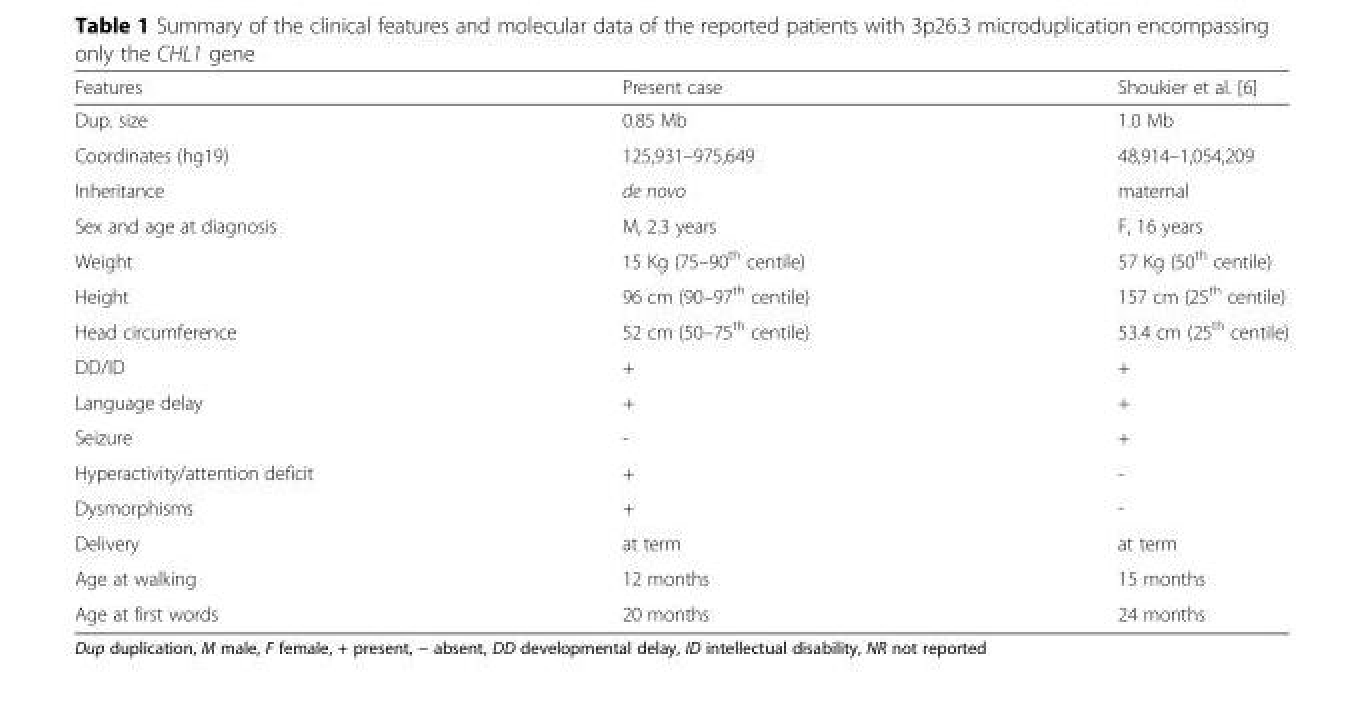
<table><thead><tr><td>Features</td><td>Present case</td><td>Shoukier et al. [6]</td></tr></thead><tbody><tr><td>Dup. size</td><td>0.85 Mb</td><td>1.0 Mb</td></tr><tr><td>Coordinates (hg19)</td><td>125,931–975,649</td><td>48,914–1,054,209</td></tr><tr><td>Inheritance</td><td>de novo</td><td>maternal</td></tr><tr><td>Sex and age at diagnosis</td><td>M, 2.3 years</td><td>F, 16 years</td></tr><tr><td>Weight</td><td>15 Kg (75–90<sup>th</sup> centile)</td><td>57 Kg (50<sup>th</sup> centile)</td></tr><tr><td>Height</td><td>96 cm (90–97<sup>th</sup> centile)</td><td>157 cm (25<sup>th</sup> centile)</td></tr><tr><td>Head circumference</td><td>52 cm (50–75<sup>th</sup> centile)</td><td>53.4 cm (25<sup>th</sup> centile)</td></tr><tr><td>DD/ID</td><td>+</td><td>+</td></tr><tr><td>Language delay</td><td>+</td><td>+</td></tr><tr><td>Seizure</td><td>-</td><td>+</td></tr><tr><td>Hyperactivity/attention deficit</td><td>+</td><td>-</td></tr><tr><td>Dysmorphisms</td><td>+</td><td>-</td></tr><tr><td>Delivery</td><td>at term</td><td>at term</td></tr><tr><td>Age at walking</td><td>12 months</td><td>15 months</td></tr><tr><td>Age at first words</td><td>20 months</td><td>24 months</td></tr></tbody></table>